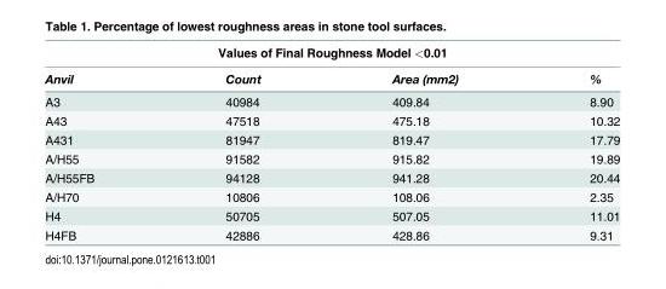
<table><thead><tr><td colspan="4">Values of Final Roughness Model &lt;0.01</td></tr><tr><td>Anvil</td><td>Count</td><td>Area (mm2)</td><td>%</td></tr></thead><tbody><tr><td>A3</td><td>40984</td><td>409.84</td><td>8.90</td></tr><tr><td>A43</td><td>47518</td><td>475.18</td><td>10.32</td></tr><tr><td>A431</td><td>81947</td><td>819.47</td><td>17.79</td></tr><tr><td>A/H55</td><td>91582</td><td>915.82</td><td>19.89</td></tr><tr><td>A/H55FB</td><td>94128</td><td>941.28</td><td>20.44</td></tr><tr><td>A/H70</td><td>10806</td><td>108.06</td><td>2.35</td></tr><tr><td>H4</td><td>50705</td><td>507.05</td><td>11.01</td></tr><tr><td>H4FB</td><td>42886</td><td>428.86</td><td>9.31</td></tr></tbody></table>